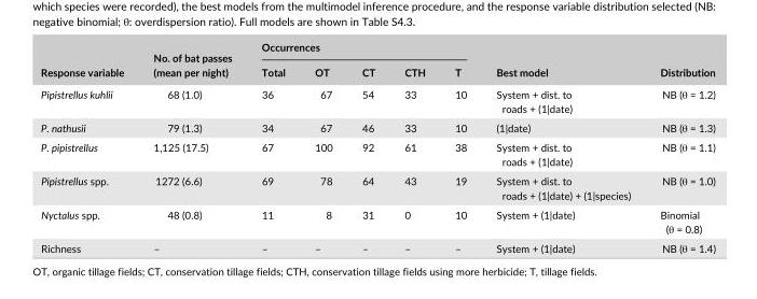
<table><thead><tr><td rowspan="2">Response variable</td><td rowspan="2">No. of bat passes (mean per night)</td><td colspan="5">Occurrences</td><td rowspan="2">Best model</td><td rowspan="2">Distribution</td></tr><tr><td>Total</td><td>OT</td><td>CT</td><td>CTH</td><td>T</td></tr></thead><tbody><tr><td>Pipistrellus kuhlii</td><td>68 (1.0)</td><td>36</td><td>67</td><td>54</td><td>33</td><td>10</td><td>System + dist. to roads + (1|date)</td><td>NB (θ = 1.2)</td></tr><tr><td>P. nathusii</td><td>79 (1.3)</td><td>34</td><td>67</td><td>46</td><td>33</td><td>10</td><td>(1|date)</td><td>NB (θ = 1.3)</td></tr><tr><td>P. pipistrellus</td><td>1,125 (17.5)</td><td>67</td><td>100</td><td>92</td><td>61</td><td>38</td><td>System + dist. to roads + (1|date)</td><td>NB (θ = 1.1)</td></tr><tr><td>Pipistrellus spp.</td><td>1272 (6.6)</td><td>69</td><td>78</td><td>64</td><td>43</td><td>19</td><td>System + dist. to roads + (1|date) + (1|species)</td><td>NB (θ = 1.0)</td></tr><tr><td>Nyctalus spp.</td><td>48 (0.8)</td><td>11</td><td>8</td><td>31</td><td>0</td><td>10</td><td>System + (1|date)</td><td>Binomial (θ = 0.8)</td></tr><tr><td>Richness</td><td>–</td><td>–</td><td>–</td><td>–</td><td>–</td><td>–</td><td>System + (1|date)</td><td>NB (θ = 1.4)</td></tr></tbody></table>